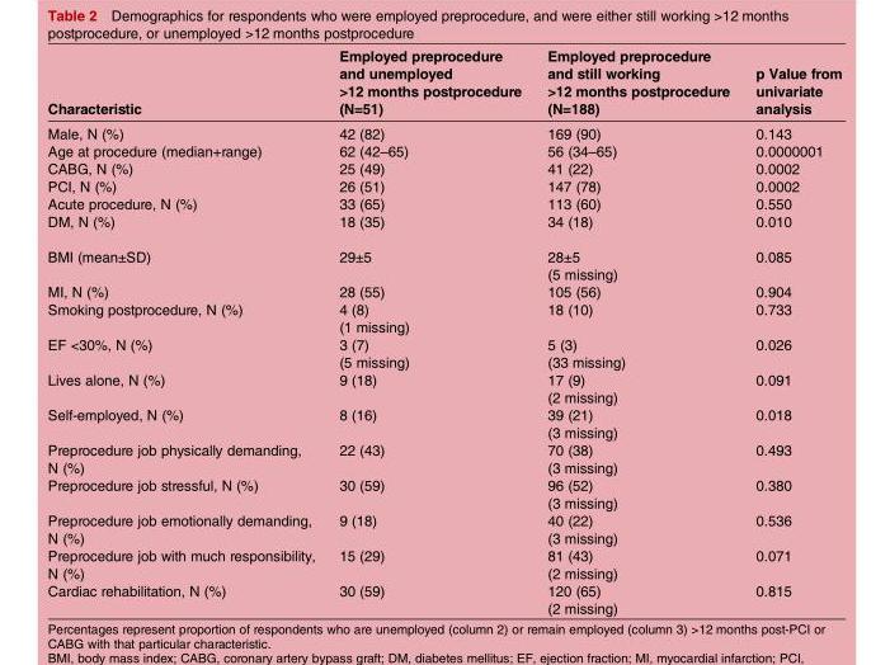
<table><thead><tr><td>Characteristic</td><td>Employed preprocedure and unemployed &gt;12 months postprocedure (N=51)</td><td>Employed preprocedure and still working &gt;12 months postprocedure (N=188)</td><td>p Value from univariate analysis</td></tr></thead><tbody><tr><td>Male, N (%)</td><td>42 (82)</td><td>169 (90)</td><td>0.143</td></tr><tr><td>Age at procedure (median+range)</td><td>62 (42–65)</td><td>56 (34–65)</td><td>0.0000001</td></tr><tr><td>CABG, N (%)</td><td>25 (49)</td><td>41 (22)</td><td>0.0002</td></tr><tr><td>PCI, N (%)</td><td>26 (51)</td><td>147 (78)</td><td>0.0002</td></tr><tr><td>Acute procedure, N (%)</td><td>33 (65)</td><td>113 (60)</td><td>0.550</td></tr><tr><td>DM, N (%)</td><td>18 (35)</td><td>34 (18)</td><td>0.010</td></tr><tr><td>BMI (mean±SD)</td><td>29±5</td><td>28±5 (5 missing)</td><td>0.085</td></tr><tr><td>MI, N (%)</td><td>28 (55)</td><td>105 (56)</td><td>0.904</td></tr><tr><td>Smoking postprocedure, N (%)</td><td>4 (8) (1 missing)</td><td>18 (10)</td><td>0.733</td></tr><tr><td>EF &lt;30%, N (%)</td><td>3 (7) (5 missing)</td><td>5 (3) (33 missing)</td><td>0.026</td></tr><tr><td>Lives alone, N (%)</td><td>9 (18)</td><td>17 (9) (2 missing)</td><td>0.091</td></tr><tr><td>Self-employed, N (%)</td><td>8 (16)</td><td>39 (21) (3 missing)</td><td>0.018</td></tr><tr><td>Preprocedure job physically demanding, N (%)</td><td>22 (43)</td><td>70 (38) (3 missing)</td><td>0.493</td></tr><tr><td>Preprocedure job stressful, N (%)</td><td>30 (59)</td><td>96 (52) (3 missing)</td><td>0.380</td></tr><tr><td>Preprocedure job emotionally demanding, N (%)</td><td>9 (18)</td><td>40 (22) (3 missing)</td><td>0.536</td></tr><tr><td>Preprocedure job with much responsibility, N (%)</td><td>15 (29)</td><td>81 (43) (2 missing)</td><td>0.071</td></tr><tr><td>Cardiac rehabilitation, N (%)</td><td>30 (59)</td><td>120 (65) (2 missing)</td><td>0.815</td></tr></tbody></table>